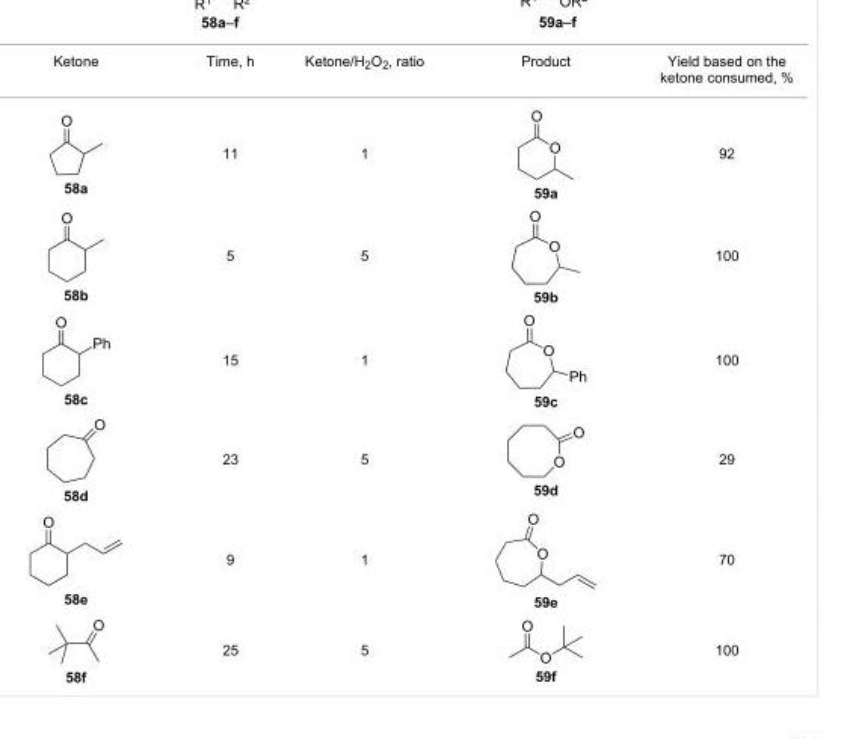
<table><tbody><tr><td>Ketone</td><td>Time, h</td><td>Ketone/H<sub>2</sub>O<sub>2</sub>, ratio</td><td>Product</td><td>Yield based on the ketone consumed, %</td></tr><tr><td>58a</td><td>11</td><td>1</td><td>59a</td><td>92</td></tr><tr><td>58b</td><td>5</td><td>5</td><td>59b</td><td>100</td></tr><tr><td>58c</td><td>15</td><td>1</td><td>59c</td><td>100</td></tr><tr><td>58d</td><td>23</td><td>5</td><td>59d</td><td>29</td></tr><tr><td>58e</td><td>9</td><td>1</td><td>59e</td><td>70</td></tr><tr><td>58f</td><td>25</td><td>5</td><td>59f</td><td>100</td></tr></tbody></table>